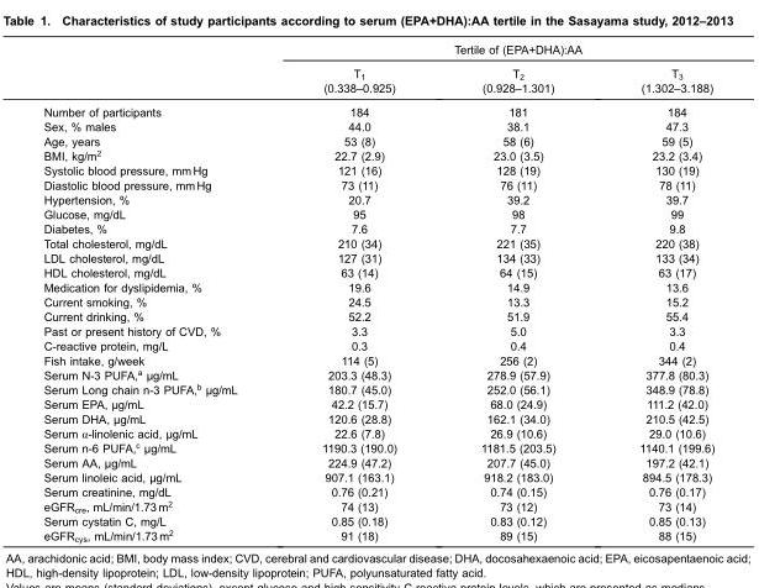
<table><thead><tr><td rowspan="2"></td><td colspan="3">Tertile of (EPA+DHA):AA</td></tr><tr><td>T<sub>1</sub> (0.338–0.925)</td><td>T<sub>2</sub> (0.928–1.301)</td><td>T<sub>3</sub> (1.302–3.188)</td></tr></thead><tbody><tr><td>Number of participants</td><td>184</td><td>181</td><td>184</td></tr><tr><td>Sex, % males</td><td>44.0</td><td>38.1</td><td>47.3</td></tr><tr><td>Age, years</td><td>53 (8)</td><td>58 (6)</td><td>59 (5)</td></tr><tr><td>BMI, kg/m<sup>2</sup></td><td>22.7 (2.9)</td><td>23.0 (3.5)</td><td>23.2 (3.4)</td></tr><tr><td>Systolic blood pressure, mm Hg</td><td>121 (16)</td><td>128 (19)</td><td>130 (19)</td></tr><tr><td>Diastolic blood pressure, mm Hg</td><td>73 (11)</td><td>76 (11)</td><td>78 (11)</td></tr><tr><td>Hypertension, %</td><td>20.7</td><td>39.2</td><td>39.7</td></tr><tr><td>Glucose, mg/dL</td><td>95</td><td>98</td><td>99</td></tr><tr><td>Diabetes, %</td><td>7.6</td><td>7.7</td><td>9.8</td></tr><tr><td>Total cholesterol, mg/dL</td><td>210 (34)</td><td>221 (35)</td><td>220 (38)</td></tr><tr><td>LDL cholesterol, mg/dL</td><td>127 (31)</td><td>134 (33)</td><td>133 (34)</td></tr><tr><td>HDL cholesterol, mg/dL</td><td>63 (14)</td><td>64 (15)</td><td>63 (17)</td></tr><tr><td>Medication for dyslipidemia, %</td><td>19.6</td><td>14.9</td><td>13.6</td></tr><tr><td>Current smoking, %</td><td>24.5</td><td>13.3</td><td>15.2</td></tr><tr><td>Current drinking, %</td><td>52.2</td><td>51.9</td><td>55.4</td></tr><tr><td>Past or present history of CVD, %</td><td>3.3</td><td>5.0</td><td>3.3</td></tr><tr><td>C-reactive protein, mg/L</td><td>0.3</td><td>0.4</td><td>0.4</td></tr><tr><td>Fish intake, g/week</td><td>114 (5)</td><td>256 (2)</td><td>344 (2)</td></tr><tr><td>Serum N-3 PUFA,<sup>a</sup> µg/mL</td><td>203.3 (48.3)</td><td>278.9 (57.9)</td><td>377.8 (80.3)</td></tr><tr><td>Serum Long chain n-3 PUFA,<sup>b</sup> µg/mL</td><td>180.7 (45.0)</td><td>252.0 (56.1)</td><td>348.9 (78.8)</td></tr><tr><td>Serum EPA, µg/mL</td><td>42.2 (15.7)</td><td>68.0 (24.9)</td><td>111.2 (42.0)</td></tr><tr><td>Serum DHA, µg/mL</td><td>120.6 (28.8)</td><td>162.1 (34.0)</td><td>210.5 (42.5)</td></tr><tr><td>Serum α-linolenic acid, µg/mL</td><td>22.6 (7.8)</td><td>26.9 (10.6)</td><td>29.0 (10.6)</td></tr><tr><td>Serum n-6 PUFA,<sup>c</sup> µg/mL</td><td>1190.3 (190.0)</td><td>1181.5 (203.5)</td><td>1140.1 (199.6)</td></tr><tr><td>Serum AA, µg/mL</td><td>224.9 (47.2)</td><td>207.7 (45.0)</td><td>197.2 (42.1)</td></tr><tr><td>Serum linoleic acid, µg/mL</td><td>907.1 (163.1)</td><td>918.2 (183.0)</td><td>894.5 (178.3)</td></tr><tr><td>Serum creatinine, mg/dL</td><td>0.76 (0.21)</td><td>0.74 (0.15)</td><td>0.76 (0.17)</td></tr><tr><td>eGFR<sub>cre</sub>, mL/min/1.73 m<sup>2</sup></td><td>74 (13)</td><td>73 (12)</td><td>73 (14)</td></tr><tr><td>Serum cystatin C, mg/L</td><td>0.85 (0.18)</td><td>0.83 (0.12)</td><td>0.85 (0.13)</td></tr><tr><td>eGFR<sub>cys</sub>, mL/min/1.73 m<sup>2</sup></td><td>91 (18)</td><td>89 (15)</td><td>88 (15)</td></tr></tbody></table>